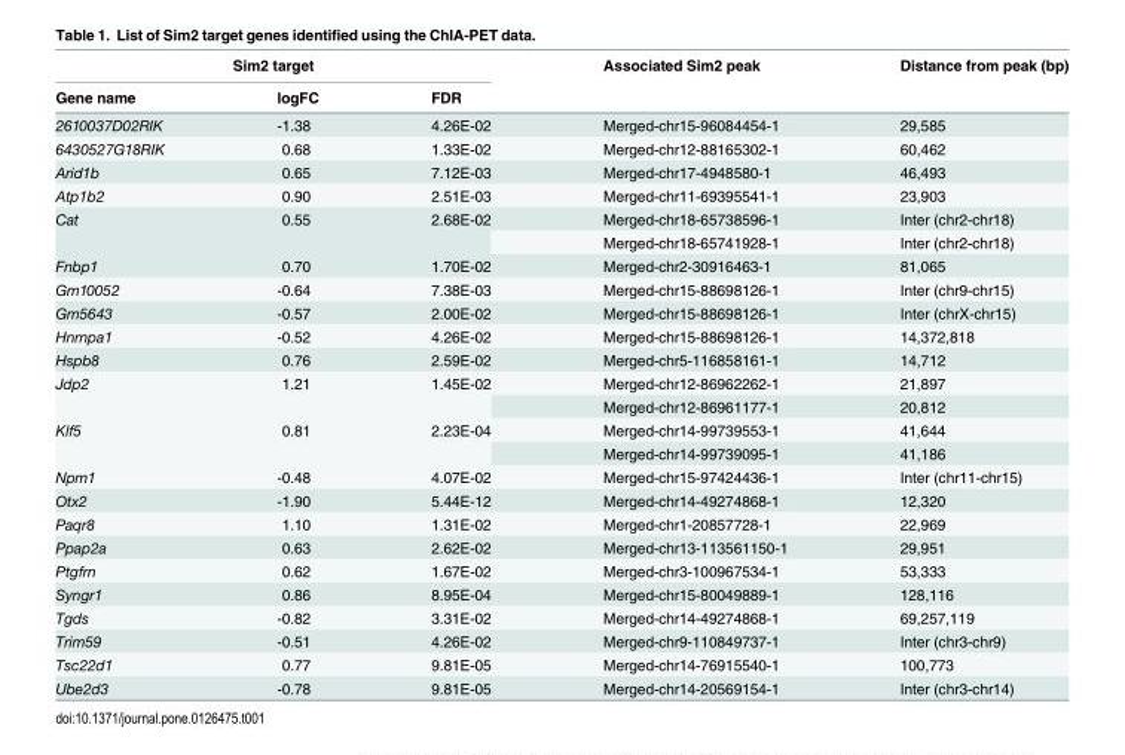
<table><thead><tr><td colspan="3">Sim2 target</td><td rowspan="2">Associated Sim2 peak</td><td rowspan="2">Distance from peak (bp)</td></tr><tr><td>Gene name</td><td>logFC</td><td>FDR</td></tr></thead><tbody><tr><td>2610037D02RIK</td><td>-1.38</td><td>4.26E-02</td><td>Merged-chr15-96084454-1</td><td>29,585</td></tr><tr><td>6430527G18RIK</td><td>0.68</td><td>1.33E-02</td><td>Merged-chr12-88165302-1</td><td>60,462</td></tr><tr><td>Arid1b</td><td>0.65</td><td>7.12E-03</td><td>Merged-chr17-4948580-1</td><td>46,493</td></tr><tr><td>Atp1b2</td><td>0.90</td><td>2.51E-03</td><td>Merged-chr11-69395541-1</td><td>23,903</td></tr><tr><td rowspan="2">Cat</td><td rowspan="2">0.55</td><td rowspan="2">2.68E-02</td><td>Merged-chr18-65738596-1</td><td>Inter (chr2-chr18)</td></tr><tr><td>Merged-chr18-65741928-1</td><td>Inter (chr2-chr18)</td></tr><tr><td>Fnbp1</td><td>0.70</td><td>1.70E-02</td><td>Merged-chr2-30916463-1</td><td>81,065</td></tr><tr><td>Gm10052</td><td>-0.64</td><td>7.38E-03</td><td>Merged-chr15-88698126-1</td><td>Inter (chr9-chr15)</td></tr><tr><td>Gm5643</td><td>-0.57</td><td>2.00E-02</td><td>Merged-chr15-88698126-1</td><td>Inter (chrX-chr15)</td></tr><tr><td>Hnrnpa1</td><td>-0.52</td><td>4.26E-02</td><td>Merged-chr15-88698126-1</td><td>14,372,818</td></tr><tr><td>Hspb8</td><td>0.76</td><td>2.59E-02</td><td>Merged-chr5-116858161-1</td><td>14,712</td></tr><tr><td rowspan="2">Jdp2</td><td rowspan="2">1.21</td><td rowspan="2">1.45E-02</td><td>Merged-chr12-86962262-1</td><td>21,897</td></tr><tr><td>Merged-chr12-86961177-1</td><td>20,812</td></tr><tr><td rowspan="2">Klf5</td><td rowspan="2">0.81</td><td rowspan="2">2.23E-04</td><td>Merged-chr14-99739553-1</td><td>41,644</td></tr><tr><td>Merged-chr14-99739095-1</td><td>41,186</td></tr><tr><td>Npm1</td><td>-0.48</td><td>4.07E-02</td><td>Merged-chr15-97424436-1</td><td>Inter (chr11-chr15)</td></tr><tr><td>Otx2</td><td>-1.90</td><td>5.44E-12</td><td>Merged-chr14-49274868-1</td><td>12,320</td></tr><tr><td>Paqr8</td><td>1.10</td><td>1.31E-02</td><td>Merged-chr1-20857728-1</td><td>22,969</td></tr><tr><td>Ppap2a</td><td>0.63</td><td>2.62E-02</td><td>Merged-chr13-113561150-1</td><td>29,951</td></tr><tr><td>Ptgfrn</td><td>0.62</td><td>1.67E-02</td><td>Merged-chr3-100967534-1</td><td>53,333</td></tr><tr><td>Syngr1</td><td>0.86</td><td>8.95E-04</td><td>Merged-chr15-80049889-1</td><td>128,116</td></tr><tr><td>Tgds</td><td>-0.82</td><td>3.31E-02</td><td>Merged-chr14-49274868-1</td><td>69,257,119</td></tr><tr><td>Trim59</td><td>-0.51</td><td>4.26E-02</td><td>Merged-chr9-110849737-1</td><td>Inter (chr3-chr9)</td></tr><tr><td>Tsc22d1</td><td>0.77</td><td>9.81E-05</td><td>Merged-chr14-76915540-1</td><td>100,773</td></tr><tr><td>Ube2d3</td><td>-0.78</td><td>9.81E-05</td><td>Merged-chr14-20569154-1</td><td>Inter (chr3-chr14)</td></tr></tbody></table>